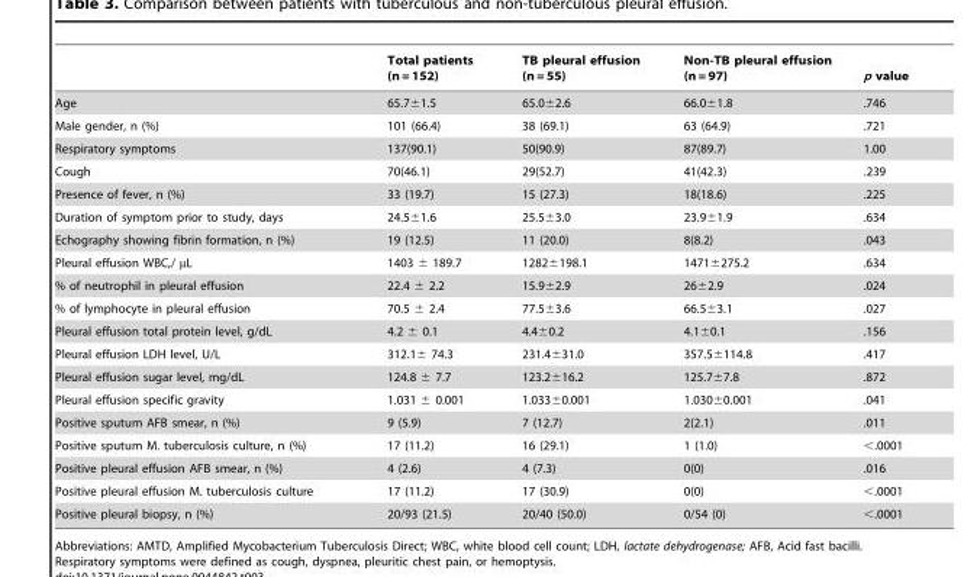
<table><thead><tr><td></td><td>Total patients (n = 152)</td><td>TB pleural effusion (n = 55)</td><td>Non-TB pleural effusion (n = 97)</td><td>p value</td></tr></thead><tbody><tr><td>Age</td><td>65.7±1.5</td><td>65.0±2.6</td><td>66.0±1.8</td><td>.746</td></tr><tr><td>Male gender, n (%)</td><td>101 (66.4)</td><td>38 (69.1)</td><td>63 (64.9)</td><td>.721</td></tr><tr><td>Respiratory symptoms</td><td>137(90.1)</td><td>50(90.9)</td><td>87(89.7)</td><td>1.00</td></tr><tr><td>Cough</td><td>70(46.1)</td><td>29(52.7)</td><td>41(42.3)</td><td>.239</td></tr><tr><td>Presence of fever, n (%)</td><td>33 (19.7)</td><td>15 (27.3)</td><td>18(18.6)</td><td>.225</td></tr><tr><td>Duration of symptom prior to study, days</td><td>24.5±1.6</td><td>25.5±3.0</td><td>23.9±1.9</td><td>.634</td></tr><tr><td>Echography showing fibrin formation, n (%)</td><td>19 (12.5)</td><td>11 (20.0)</td><td>8(8.2)</td><td>.043</td></tr><tr><td>Pleural effusion WBC,/ µL</td><td>1403 ± 189.7</td><td>1282±198.1</td><td>1471±275.2</td><td>.634</td></tr><tr><td>% of neutrophil in pleural effusion</td><td>22.4 ± 2.2</td><td>15.9±2.9</td><td>26±2.9</td><td>.024</td></tr><tr><td>% of lymphocyte in pleural effusion</td><td>70.5 ± 2.4</td><td>77.5±3.6</td><td>66.5±3.1</td><td>.027</td></tr><tr><td>Pleural effusion total protein level, g/dL</td><td>4.2 ± 0.1</td><td>4.4±0.2</td><td>4.1±0.1</td><td>.156</td></tr><tr><td>Pleural effusion LDH level, U/L</td><td>312.1± 74.3</td><td>231.4±31.0</td><td>357.5±114.8</td><td>.417</td></tr><tr><td>Pleural effusion sugar level, mg/dL</td><td>124.8 ± 7.7</td><td>123.2±16.2</td><td>125.7±7.8</td><td>.872</td></tr><tr><td>Pleural effusion specific gravity</td><td>1.031 ± 0.001</td><td>1.033±0.001</td><td>1.030±0.001</td><td>.041</td></tr><tr><td>Positive sputum AFB smear, n (%)</td><td>9 (5.9)</td><td>7 (12.7)</td><td>2(2.1)</td><td>.011</td></tr><tr><td>Positive sputum M. tuberculosis culture, n (%)</td><td>17 (11.2)</td><td>16 (29.1)</td><td>1 (1.0)</td><td>&lt;.0001</td></tr><tr><td>Positive pleural effusion AFB smear, n (%)</td><td>4 (2.6)</td><td>4 (7.3)</td><td>0(0)</td><td>.016</td></tr><tr><td>Positive pleural effusion M. tuberculosis culture</td><td>17 (11.2)</td><td>17 (30.9)</td><td>0(0)</td><td>&lt;.0001</td></tr><tr><td>Positive pleural biopsy, n (%)</td><td>20/93 (21.5)</td><td>20/40 (50.0)</td><td>0/54 (0)</td><td>&lt;.0001</td></tr></tbody></table>